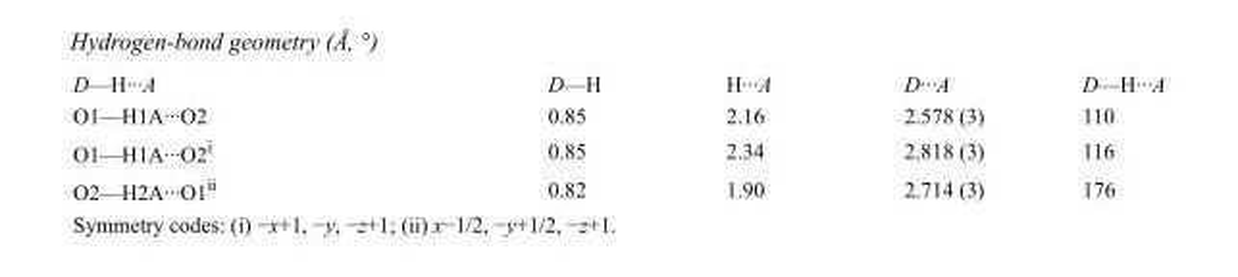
<table><tbody><tr><td>D—H···A</td><td>D—H</td><td>H···A</td><td>D···A</td><td>D—H···A</td></tr><tr><td>O1—H1A···O2</td><td>0.85</td><td>2.16</td><td>2.578 (3)</td><td>110</td></tr><tr><td>O1—H1A···O2<sup>i</sup></td><td>0.85</td><td>2.34</td><td>2.818 (3)</td><td>116</td></tr><tr><td>O2—H2A···O1<sup>ii</sup></td><td>0.82</td><td>1.90</td><td>2.714 (3)</td><td>176</td></tr></tbody></table>